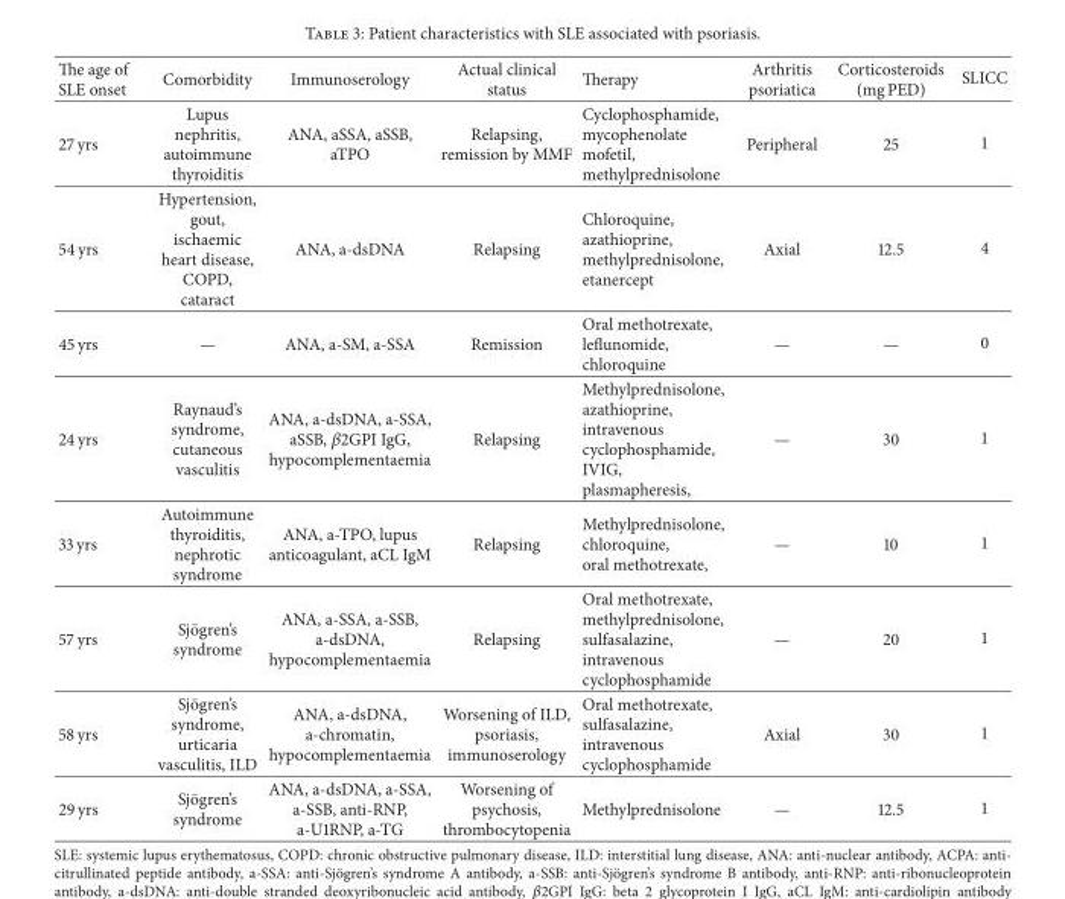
<table><thead><tr><td>The age of SLE onset</td><td>Comorbidity</td><td>Immunoserology</td><td>Actual clinical status</td><td>Therapy</td><td>Arthritis psoriatica</td><td>Corticosteroids (mg PED)</td><td>SLICC</td></tr></thead><tbody><tr><td>27 yrs</td><td>Lupus nephritis, autoimmune thyroiditis</td><td>ANA, aSSA, aSSB, aTPO</td><td>Relapsing, remission by MMF</td><td>Cyclophosphamide, mycophenolate mofetil, methylprednisolone</td><td>Peripheral</td><td>25</td><td>1</td></tr><tr><td>54 yrs</td><td>Hypertension, gout, ischaemic heart disease, COPD, cataract</td><td>ANA, a-dsDNA</td><td>Relapsing</td><td>Chloroquine, azathioprine, methylprednisolone, etanercept</td><td>Axial</td><td>12.5</td><td>4</td></tr><tr><td>45 yrs</td><td>—</td><td>ANA, a-SM, a-SSA</td><td>Remission</td><td>Oral methotrexate, leflunomide, chloroquine</td><td>—</td><td>—</td><td>0</td></tr><tr><td>24 yrs</td><td>Raynaud’s syndrome, cutaneous vasculitis</td><td>ANA, a-dsDNA, a-SSA, aSSB, 𝛽2GPI IgG, hypocomplementaemia</td><td>Relapsing</td><td>Methylprednisolone, azathioprine, intravenous cyclophosphamide, IVIG, plasmapheresis,</td><td>—</td><td>30</td><td>1</td></tr><tr><td>33 yrs</td><td>Autoimmune thyroiditis, nephrotic syndrome</td><td>ANA, a-TPO, lupus anticoagulant, aCL IgM</td><td>Relapsing</td><td>Methylprednisolone, chloroquine, oral methotrexate,</td><td>—</td><td>10</td><td>1</td></tr><tr><td>57 yrs</td><td>Sj¨ogren’s syndrome</td><td>ANA, a-SSA, a-SSB, a-dsDNA, hypocomplementaemia</td><td>Relapsing</td><td>Oral methotrexate, methylprednisolone, sulfasalazine, intravenous cyclophosphamide</td><td>—</td><td>20</td><td>1</td></tr><tr><td>58 yrs</td><td>Sj¨ogren’s syndrome, urticaria vasculitis, ILD</td><td>ANA, a-dsDNA, a-chromatin, hypocomplementaemia</td><td>Worsening of ILD, psoriasis, immunoserology</td><td>Oral methotrexate, sulfasalazine, intravenous cyclophosphamide</td><td>Axial</td><td>30</td><td>1</td></tr><tr><td>29 yrs</td><td>Sj¨ogren’s syndrome</td><td>ANA, a-dsDNA, a-SSA, a-SSB, anti-RNP, a-U1RNP, a-TG</td><td>Worsening of psychosis, thrombocytopenia</td><td>Methylprednisolone</td><td>—</td><td>12.5</td><td>1</td></tr></tbody></table>